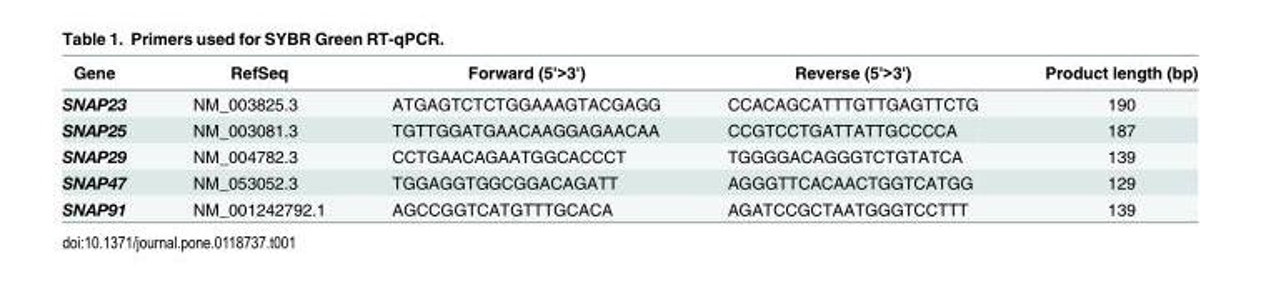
<table><thead><tr><td>Gene</td><td>RefSeq</td><td>Forward (5&#x27;&gt;3&#x27;)</td><td>Reverse (5&#x27;&gt;3&#x27;)</td><td>Product length (bp)</td></tr></thead><tbody><tr><td>SNAP23</td><td>NM_003825.3</td><td>ATGAGTCTCTGGAAAGTACGAGG</td><td>CCACAGCATTTGTTGAGTTCTG</td><td>190</td></tr><tr><td>SNAP25</td><td>NM_003081.3</td><td>TGTTGGATGAACAAGGAGAACAA</td><td>CCGTCCTGATTATTGCCCCA</td><td>187</td></tr><tr><td>SNAP29</td><td>NM_004782.3</td><td>CCTGAACAGAATGGCACCCT</td><td>TGGGGACAGGGTCTGTATCA</td><td>139</td></tr><tr><td>SNAP47</td><td>NM_053052.3</td><td>TGGAGGTGGCGGACAGATT</td><td>AGGGTTCACAACTGGTCATGG</td><td>129</td></tr><tr><td>SNAP91</td><td>NM_001242792.1</td><td>AGCCGGTCATGTTTGCACA</td><td>AGATCCGCTAATGGGTCCTTT</td><td>139</td></tr></tbody></table>